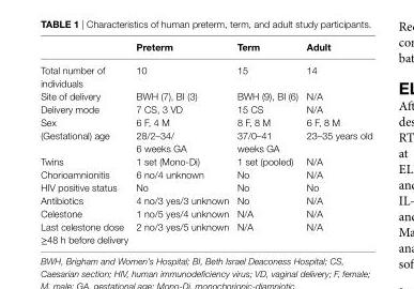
<table><thead><tr><td></td><td>Preterm</td><td>Term</td><td>adult</td></tr></thead><tbody><tr><td>Total number of individuals</td><td>10</td><td>15</td><td>14</td></tr><tr><td>Site of delivery</td><td>BWH (7), BI (3)</td><td>BWH (9), BI (6)</td><td>N/A</td></tr><tr><td>Delivery mode</td><td>7 CS, 3 VD</td><td>15 CS</td><td>N/A</td></tr><tr><td>Sex</td><td>6 F, 4 M</td><td>8 F, 8 M</td><td>6 F, 8 M</td></tr><tr><td>(Gestational) age</td><td>28/2–34/ 6 weeks GA</td><td>37/0–41 weeks GA</td><td>23–35 years old</td></tr><tr><td>Twins</td><td>1 set (Mono-Di)</td><td>1 set (pooled)</td><td>N/A</td></tr><tr><td>Chorioamnionitis</td><td>6 no/4 unknown</td><td>No</td><td>N/A</td></tr><tr><td>HIV positive status</td><td>No</td><td>No</td><td>No</td></tr><tr><td>Antibiotics</td><td>4 no/3 yes/3 unknown</td><td>No</td><td>N/A</td></tr><tr><td>Celestone</td><td>1 no/5 yes/4 unknown</td><td>N/A</td><td>N/A</td></tr><tr><td>Last celestone dose ≥48 h before delivery</td><td>2 no/3 yes/5 unknown</td><td>N/A</td><td>N/A</td></tr></tbody></table>